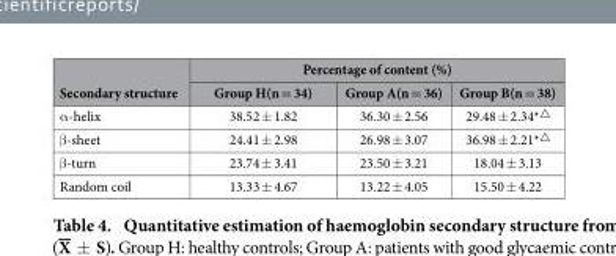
<table><thead><tr><td rowspan="2">Secondary structure</td><td colspan="3">Percentage of content (%)</td></tr><tr><td>Group H(n = 34)</td><td>Group A(n = 36)</td><td>Group B(n = 38)</td></tr></thead><tbody><tr><td>α -helix</td><td>38.52 ± 1.82</td><td>36.30 ± 2.56</td><td>29.48 ± 2.34*<sup>△</sup></td></tr><tr><td>β -sheet</td><td>24.41 ± 2.98</td><td>26.98 ± 3.07</td><td>36.98 ± 2.21*<sup>△</sup></td></tr><tr><td>β -turn</td><td>23.74 ± 3.41</td><td>23.50 ± 3.21</td><td>18.04 ± 3.13</td></tr><tr><td>Random coil</td><td>13.33 ± 4.67</td><td>13.22 ± 4.05</td><td>15.50 ± 4.22</td></tr></tbody></table>